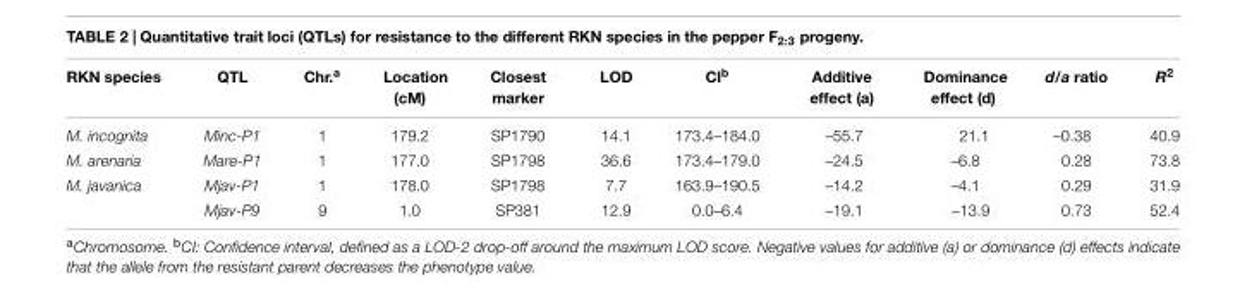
<table><thead><tr><td>RKN species</td><td>QTL</td><td>Chr.<sup>a</sup></td><td>Location (cM)</td><td>Closest marker</td><td>LOD</td><td>CI<sup>b</sup></td><td>Additive effect (a)</td><td>Dominance effect (d)</td><td>d/a ratio</td><td>R<sup>2</sup></td></tr></thead><tbody><tr><td>M. incognita</td><td>Minc-P1</td><td>1</td><td>179.2</td><td>SP1790</td><td>14.1</td><td>173.4–184.0</td><td>–55.7</td><td>21.1</td><td>–0.38</td><td>40.9</td></tr><tr><td>M. arenaria</td><td>Mare-P1</td><td>1</td><td>177.0</td><td>SP1798</td><td>36.6</td><td>173.4–179.0</td><td>–24.5</td><td>–6.8</td><td>0.28</td><td>73.8</td></tr><tr><td rowspan="2">M. javanica</td><td>Mjav-P1</td><td>1</td><td>178.0</td><td>SP1798</td><td>7.7</td><td>163.9–190.5</td><td>–14.2</td><td>–4.1</td><td>0.29</td><td>31.9</td></tr><tr><td>Mjav-P9</td><td>9</td><td>1.0</td><td>SP381</td><td>12.9</td><td>0.0–6.4</td><td>–19.1</td><td>–13.9</td><td>0.73</td><td>52.4</td></tr></tbody></table>